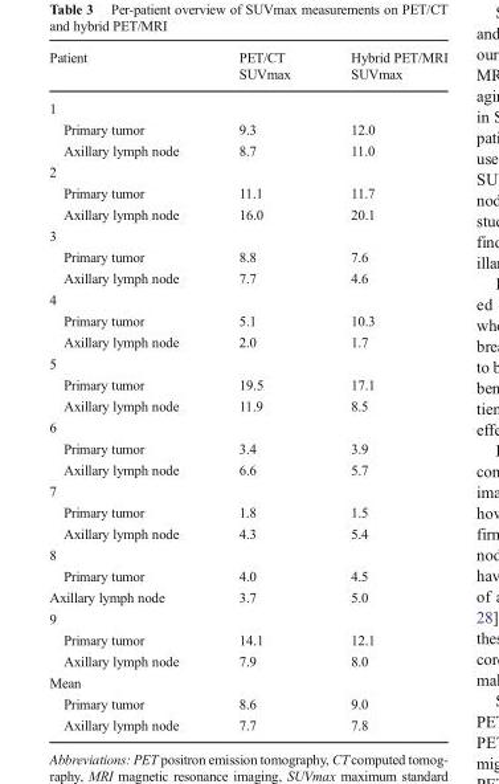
<table><thead><tr><td>Patient</td><td>PET/CT SUVmax</td><td>Hybrid PET/MRI SUVmax</td></tr></thead><tbody><tr><td colspan="3">1</td></tr><tr><td>Primary tumor</td><td>9.3</td><td>12.0</td></tr><tr><td>Axillary lymph node</td><td>8.7</td><td>11.0</td></tr><tr><td colspan="3">2</td></tr><tr><td>Primary tumor</td><td>11.1</td><td>11.7</td></tr><tr><td>Axillary lymph node</td><td>16.0</td><td>20.1</td></tr><tr><td colspan="3">3</td></tr><tr><td>Primary tumor</td><td>8.8</td><td>7.6</td></tr><tr><td>Axillary lymph node</td><td>7.7</td><td>4.6</td></tr><tr><td colspan="3">4</td></tr><tr><td>Primary tumor</td><td>5.1</td><td>10.3</td></tr><tr><td>Axillary lymph node</td><td>2.0</td><td>1.7</td></tr><tr><td colspan="3">5</td></tr><tr><td>Primary tumor</td><td>19.5</td><td>17.1</td></tr><tr><td>Axillary lymph node</td><td>11.9</td><td>8.5</td></tr><tr><td colspan="3">6</td></tr><tr><td>Primary tumor</td><td>3.4</td><td>3.9</td></tr><tr><td>Axillary lymph node</td><td>6.6</td><td>5.7</td></tr><tr><td colspan="3">7</td></tr><tr><td>Primary tumor</td><td>1.8</td><td>1.5</td></tr><tr><td>Axillary lymph node</td><td>4.3</td><td>5.4</td></tr><tr><td colspan="3">8</td></tr><tr><td>Primary tumor</td><td>4.0</td><td>4.5</td></tr><tr><td>Axillary lymph node</td><td>3.7</td><td>5.0</td></tr><tr><td colspan="3">9</td></tr><tr><td>Primary tumor</td><td>14.1</td><td>12.1</td></tr><tr><td>Axillary lymph node</td><td>7.9</td><td>8.0</td></tr><tr><td colspan="3">Mean</td></tr><tr><td>Primary tumor</td><td>8.6</td><td>9.0</td></tr><tr><td>Axillary lymph node</td><td>7.7</td><td>7.8</td></tr></tbody></table>